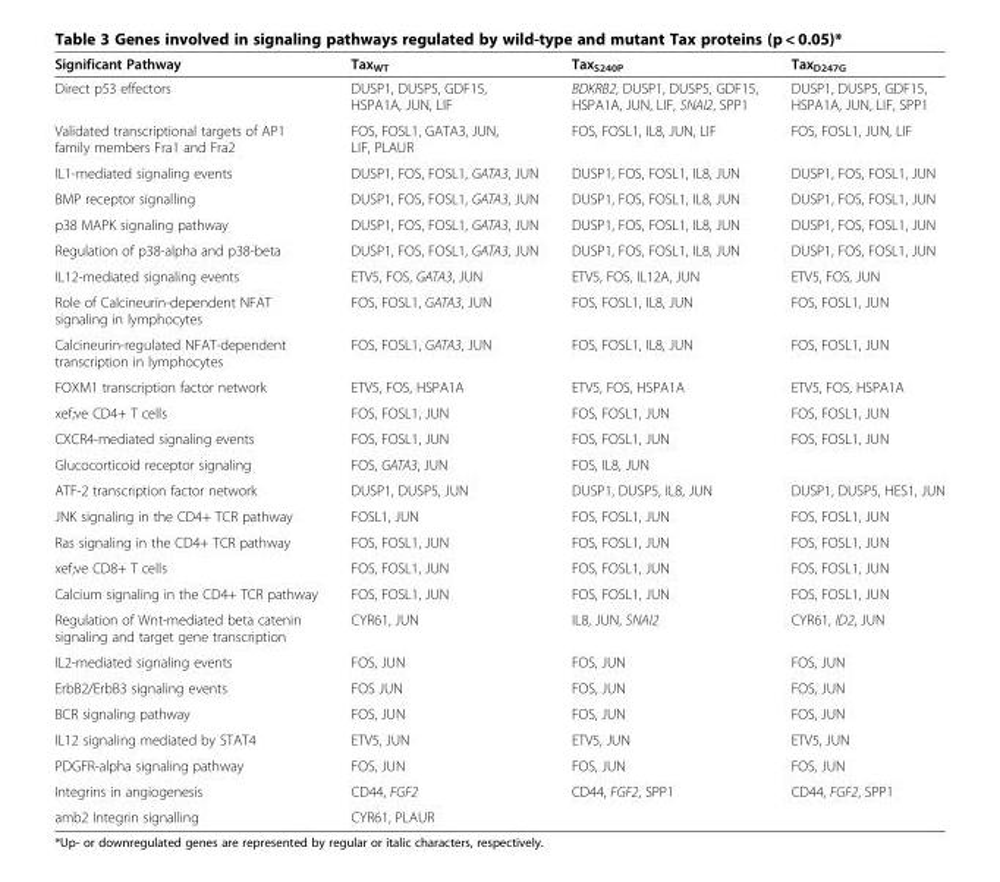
<table><thead><tr><td>Significant Pathway</td><td>Tax<sub>WT</sub></td><td>Tax<sub>S240P</sub></td><td>Tax<sub>D247G</sub></td></tr></thead><tbody><tr><td>Direct p53 effectors</td><td>DUSP1, DUSP5, GDF15, HSPA1A, JUN, LIF</td><td>BDKRB2, DUSP1, DUSP5, GDF15, HSPA1A, JUN, LIF, SNAI2, SPP1</td><td>DUSP1, DUSP5, GDF15, HSPA1A, JUN, LIF, SPP1</td></tr><tr><td>Validated transcriptional targets of AP1 family members Fra1 and Fra2</td><td>FOS, FOSL1, GATA3, JUN, LIF, PLAUR</td><td>FOS, FOSL1, IL8, JUN, LIF</td><td>FOS, FOSL1, JUN, LIF</td></tr><tr><td>IL1-mediated signaling events</td><td>DUSP1, FOS, FOSL1, GATA3, JUN</td><td>DUSP1, FOS, FOSL1, IL8, JUN</td><td>DUSP1, FOS, FOSL1, JUN</td></tr><tr><td>BMP receptor signalling</td><td>DUSP1, FOS, FOSL1, GATA3, JUN</td><td>DUSP1, FOS, FOSL1, IL8, JUN</td><td>DUSP1, FOS, FOSL1, JUN</td></tr><tr><td>p38 MAPK signaling pathway</td><td>DUSP1, FOS, FOSL1, GATA3, JUN</td><td>DUSP1, FOS, FOSL1, IL8, JUN</td><td>DUSP1, FOS, FOSL1, JUN</td></tr><tr><td>Regulation of p38-alpha and p38-beta</td><td>DUSP1, FOS, FOSL1, GATA3, JUN</td><td>DUSP1, FOS, FOSL1, IL8, JUN</td><td>DUSP1, FOS, FOSL1, JUN</td></tr><tr><td>IL12-mediated signaling events</td><td>ETV5, FOS, GATA3, JUN</td><td>ETV5, FOS, IL12A, JUN</td><td>ETV5, FOS, JUN</td></tr><tr><td>Role of Calcineurin-dependent NFAT signaling in lymphocytes</td><td>FOS, FOSL1, GATA3, JUN</td><td>FOS, FOSL1, IL8, JUN</td><td>FOS, FOSL1, JUN</td></tr><tr><td>Calcineurin-regulated NFAT-dependent transcription in lymphocytes</td><td>FOS, FOSL1, GATA3, JUN</td><td>FOS, FOSL1, IL8, JUN</td><td>FOS, FOSL1, JUN</td></tr><tr><td>FOXM1 transcription factor network</td><td>ETV5, FOS, HSPA1A</td><td>ETV5, FOS, HSPA1A</td><td>ETV5, FOS, HSPA1A</td></tr><tr><td>xef;ve CD4+ T cells</td><td>FOS, FOSL1, JUN</td><td>FOS, FOSL1, JUN</td><td>FOS, FOSL1, JUN</td></tr><tr><td>CXCR4-mediated signaling events</td><td>FOS, FOSL1, JUN</td><td>FOS, FOSL1, JUN</td><td>FOS, FOSL1, JUN</td></tr><tr><td>Glucocorticoid receptor signaling</td><td>FOS, GATA3, JUN</td><td>FOS, IL8, JUN</td><td></td></tr><tr><td>ATF-2 transcription factor network</td><td>DUSP1, DUSP5, JUN</td><td>DUSP1, DUSP5, IL8, JUN</td><td>DUSP1, DUSP5, HES1, JUN</td></tr><tr><td>JNK signaling in the CD4+ TCR pathway</td><td>FOSL1, JUN</td><td>FOS, FOSL1, JUN</td><td>FOS, FOSL1, JUN</td></tr><tr><td>Ras signaling in the CD4+ TCR pathway</td><td>FOS, FOSL1, JUN</td><td>FOS, FOSL1, JUN</td><td>FOS, FOSL1, JUN</td></tr><tr><td>xef;ve CD8+ T cells</td><td>FOS, FOSL1, JUN</td><td>FOS, FOSL1, JUN</td><td>FOS, FOSL1, JUN</td></tr><tr><td>Calcium signaling in the CD4+ TCR pathway</td><td>FOS, FOSL1, JUN</td><td>FOS, FOSL1, JUN</td><td>FOS, FOSL1, JUN</td></tr><tr><td>Regulation of Wnt-mediated beta catenin signaling and target gene transcription</td><td>CYR61, JUN</td><td>IL8, JUN, SNAI2</td><td>CYR61, ID2, JUN</td></tr><tr><td>IL2-mediated signaling events</td><td>FOS, JUN</td><td>FOS, JUN</td><td>FOS, JUN</td></tr><tr><td>ErbB2/ErbB3 signaling events</td><td>FOS JUN</td><td>FOS, JUN</td><td>FOS, JUN</td></tr><tr><td>BCR signaling pathway</td><td>FOS, JUN</td><td>FOS, JUN</td><td>FOS, JUN</td></tr><tr><td>IL12 signaling mediated by STAT4</td><td>ETV5, JUN</td><td>ETV5, JUN</td><td>ETV5, JUN</td></tr><tr><td>PDGFR-alpha signaling pathway</td><td>FOS, JUN</td><td>FOS, JUN</td><td>FOS, JUN</td></tr><tr><td>Integrins in angiogenesis</td><td>CD44, FGF2</td><td>CD44, FGF2, SPP1</td><td>CD44, FGF2, SPP1</td></tr><tr><td>amb2 Integrin signalling</td><td>CYR61, PLAUR</td><td></td><td></td></tr></tbody></table>